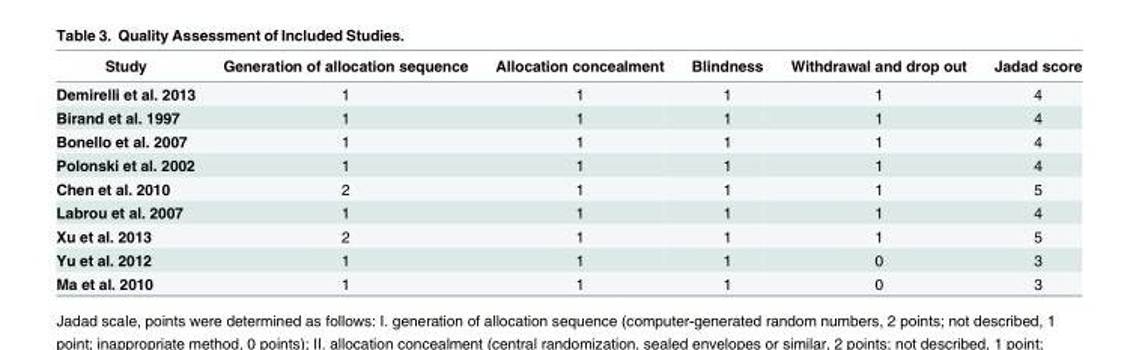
<table><thead><tr><td>Study</td><td>Generation of allocation sequence</td><td>Allocation concealment</td><td>Blindness</td><td>Withdrawal and drop out</td><td>Jadad score</td></tr></thead><tbody><tr><td>Demirelli et al. 2013</td><td>1</td><td>1</td><td>1</td><td>1</td><td>4</td></tr><tr><td>Birand et al. 1997</td><td>1</td><td>1</td><td>1</td><td>1</td><td>4</td></tr><tr><td>Bonello et al. 2007</td><td>1</td><td>1</td><td>1</td><td>1</td><td>4</td></tr><tr><td>Polonski et al. 2002</td><td>1</td><td>1</td><td>1</td><td>1</td><td>4</td></tr><tr><td>Chen et al. 2010</td><td>2</td><td>1</td><td>1</td><td>1</td><td>5</td></tr><tr><td>Labrou et al. 2007</td><td>1</td><td>1</td><td>1</td><td>1</td><td>4</td></tr><tr><td>Xu et al. 2013</td><td>2</td><td>1</td><td>1</td><td>1</td><td>5</td></tr><tr><td>Yu et al. 2012</td><td>1</td><td>1</td><td>1</td><td>0</td><td>3</td></tr><tr><td>Ma et al. 2010</td><td>1</td><td>1</td><td>1</td><td>0</td><td>3</td></tr></tbody></table>